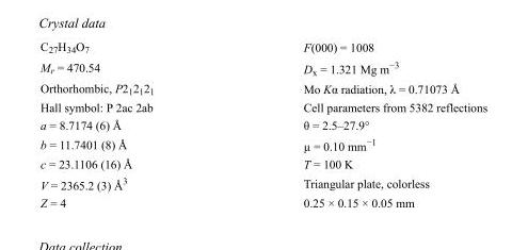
<table><tbody><tr><td>C<sub>27</sub>H<sub>34</sub>O<sub>7</sub></td><td>F(000) = 1008</td></tr><tr><td>M<sub>r</sub> = 470.54</td><td>D<sub>x</sub> = 1.321 Mg m<sup>−3</sup></td></tr><tr><td>Orthorhombic, P2<sub>1</sub>2<sub>1</sub>2<sub>1</sub></td><td>Mo Kα radiation, λ = 0.71073 Å</td></tr><tr><td>Hall symbol: P 2ac 2ab</td><td>Cell parameters from 5382 reflections</td></tr><tr><td>a = 8.7174 (6) Å</td><td>θ = 2.5–27.9°</td></tr><tr><td>b = 11.7401 (8) Å</td><td>µ = 0.10 mm<sup>−1</sup></td></tr><tr><td>c = 23.1106 (16) Å</td><td>T = 100 K</td></tr><tr><td>V = 2365.2 (3) Å<sup>3</sup></td><td>Triangular plate, colorless</td></tr><tr><td>Z = 4</td><td>0.25 × 0.15 × 0.05 mm</td></tr></tbody></table>